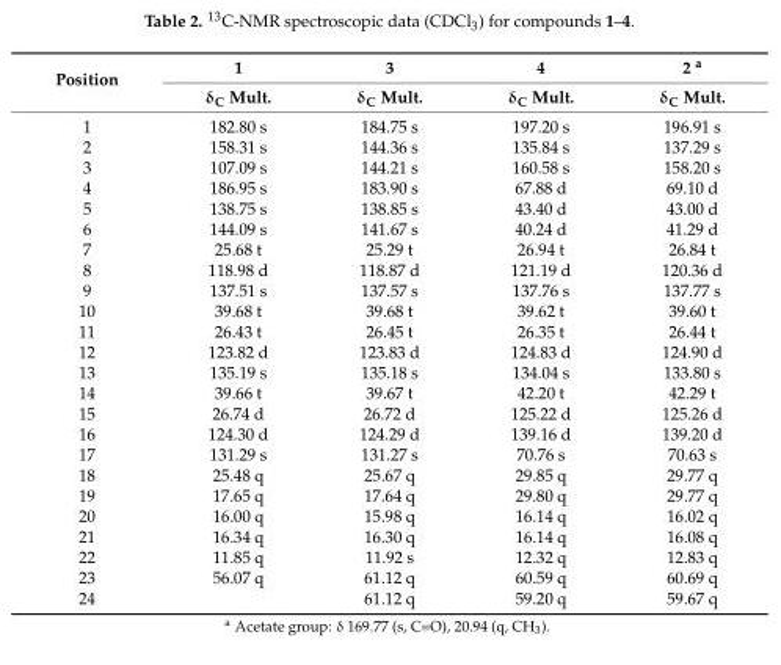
<table><thead><tr><td rowspan="2">Position</td><td rowspan="2">1 δC Mult.</td><td rowspan="2">3 δC Mult.</td><td rowspan="2">4 δC Mult.</td><td rowspan="2">2 <sup>a</sup> δ<sub>C</sub> Mult.</td></tr><tr></tr></thead><tbody><tr><td>1</td><td>182.80 s</td><td>184.75 s</td><td>197.20 s</td><td>196.91 s</td></tr><tr><td>2</td><td>158.31 s</td><td>144.36 s</td><td>135.84 s</td><td>137.29 s</td></tr><tr><td>3</td><td>107.09 s</td><td>144.21 s</td><td>160.58 s</td><td>158.20 s</td></tr><tr><td>4</td><td>186.95 s</td><td>183.90 s</td><td>67.88 d</td><td>69.10 d</td></tr><tr><td>5</td><td>138.75 s</td><td>138.85 s</td><td>43.40 d</td><td>43.00 d</td></tr><tr><td>6</td><td>144.09 s</td><td>141.67 s</td><td>40.24 d</td><td>41.29 d</td></tr><tr><td>7</td><td>25.68 t</td><td>25.29 t</td><td>26.94 t</td><td>26.84 t</td></tr><tr><td>8</td><td>118.98 d</td><td>118.87 d</td><td>121.19 d</td><td>120.36 d</td></tr><tr><td>9</td><td>137.51 s</td><td>137.57 s</td><td>137.76 s</td><td>137.77 s</td></tr><tr><td>10</td><td>39.68 t</td><td>39.68 t</td><td>39.62 t</td><td>39.60 t</td></tr><tr><td>11</td><td>26.43 t</td><td>26.45 t</td><td>26.35 t</td><td>26.44 t</td></tr><tr><td>12</td><td>123.82 d</td><td>123.83 d</td><td>124.83 d</td><td>124.90 d</td></tr><tr><td>13</td><td>135.19 s</td><td>135.18 s</td><td>134.04 s</td><td>133.80 s</td></tr><tr><td>14</td><td>39.66 t</td><td>39.67 t</td><td>42.20 t</td><td>42.29 t</td></tr><tr><td>15</td><td>26.74 d</td><td>26.72 d</td><td>125.22 d</td><td>125.26 d</td></tr><tr><td>16</td><td>124.30 d</td><td>124.29 d</td><td>139.16 d</td><td>139.20 d</td></tr><tr><td>17</td><td>131.29 s</td><td>131.27 s</td><td>70.76 s</td><td>70.63 s</td></tr><tr><td>18</td><td>25.48 q</td><td>25.67 q</td><td>29.85 q</td><td>29.77 q</td></tr><tr><td>19</td><td>17.65 q</td><td>17.64 q</td><td>29.80 q</td><td>29.77 q</td></tr><tr><td>20</td><td>16.00 q</td><td>15.98 q</td><td>16.14 q</td><td>16.02 q</td></tr><tr><td>21</td><td>16.34 q</td><td>16.30 q</td><td>16.14 q</td><td>16.08 q</td></tr><tr><td>22</td><td>11.85 q</td><td>11.92 s</td><td>12.32 q</td><td>12.83 q</td></tr><tr><td>23</td><td>56.07 q</td><td>61.12 q</td><td>60.59 q</td><td>60.69 q</td></tr><tr><td>24</td><td></td><td>61.12 q</td><td>59.20 q</td><td>59.67 q</td></tr></tbody></table>